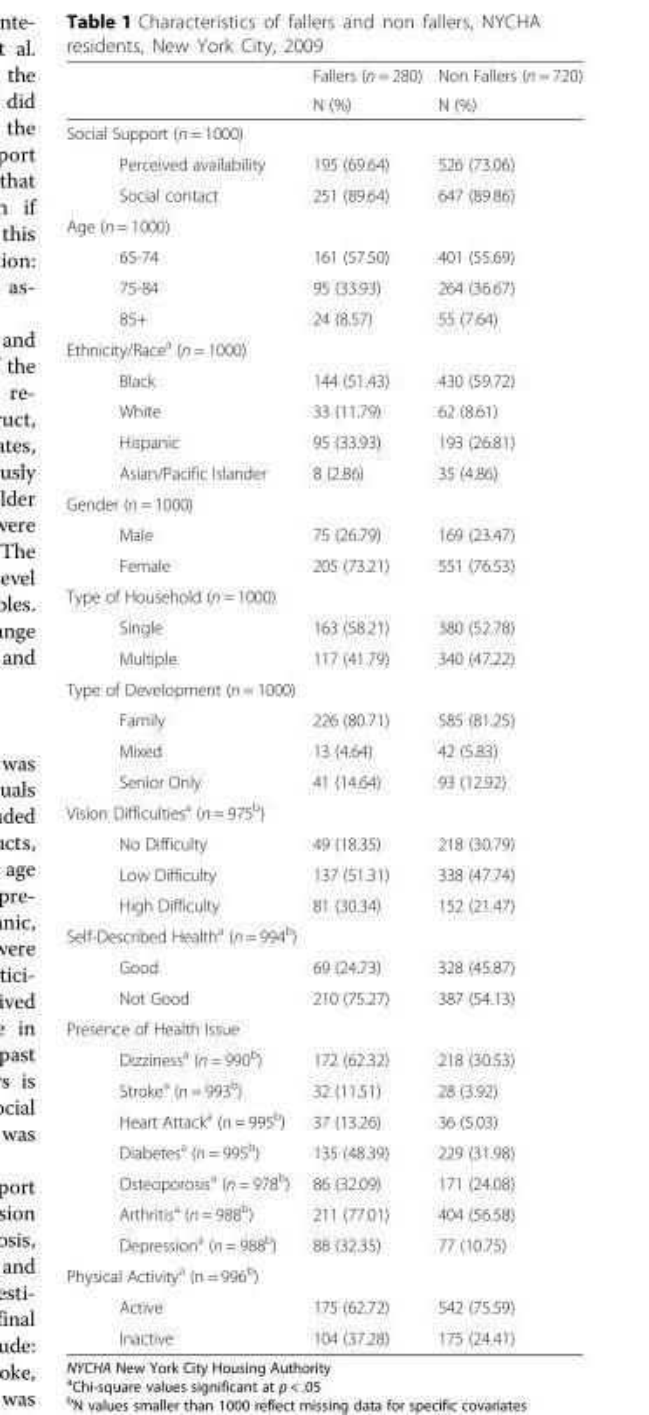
<table><thead><tr><td rowspan="2"></td><td rowspan="2">Fallers (n = 280) N (%)</td><td rowspan="2">Non Fallers (n = 720) N (%)</td></tr><tr></tr></thead><tbody><tr><td colspan="3">Social Support (n = 1000)</td></tr><tr><td>Perceived availability</td><td>195 (69.64)</td><td>526 (73.06)</td></tr><tr><td>Social contact</td><td>251 (89.64)</td><td>647 (89.86)</td></tr><tr><td colspan="3">Age (n = 1000)</td></tr><tr><td>65-74</td><td>161 (57.50)</td><td>401 (55.69)</td></tr><tr><td>75-84</td><td>95 (33.93)</td><td>264 (36.67)</td></tr><tr><td>85+</td><td>24 (8.57)</td><td>55 (7.64)</td></tr><tr><td colspan="3">Ethnicity/Race<sup>a</sup> (n = 1000)</td></tr><tr><td>Black</td><td>144 (51.43)</td><td>430 (59.72)</td></tr><tr><td>White</td><td>33 (11.79)</td><td>62 (8.61)</td></tr><tr><td>Hispanic</td><td>95 (33.93)</td><td>193 (26.81)</td></tr><tr><td>Asian/Pacific Islander</td><td>8 (2.86)</td><td>35 (4.86)</td></tr><tr><td colspan="3">Gender (n = 1000)</td></tr><tr><td>Male</td><td>75 (26.79)</td><td>169 (23.47)</td></tr><tr><td>Female</td><td>205 (73.21)</td><td>551 (76.53)</td></tr><tr><td colspan="3">Type of Household (n = 1000)</td></tr><tr><td>Single</td><td>163 (58.21)</td><td>380 (52.78)</td></tr><tr><td>Multiple</td><td>117 (41.79)</td><td>340 (47.22)</td></tr><tr><td colspan="3">Type of Development (n = 1000)</td></tr><tr><td>Family</td><td>226 (80.71)</td><td>585 (81.25)</td></tr><tr><td>Mixed</td><td>13 (4.64)</td><td>42 (5.83)</td></tr><tr><td>Senior Only</td><td>41 (14.64)</td><td>93 (12.92)</td></tr><tr><td colspan="3">Vision Difficulties<sup>a</sup> (n = 975<sup>b</sup>)</td></tr><tr><td>No Difficulty</td><td>49 (18.35)</td><td>218 (30.79)</td></tr><tr><td>Low Difficulty</td><td>137 (51.31)</td><td>338 (47.74)</td></tr><tr><td>High Difficulty</td><td>81 (30.34)</td><td>152 (21.47)</td></tr><tr><td colspan="3">Self-Described Health<sup>a</sup> (n = 994<sup>b</sup>)</td></tr><tr><td>Good</td><td>69 (24.73)</td><td>328 (45.87)</td></tr><tr><td>Not Good</td><td>210 (75.27)</td><td>387 (54.13)</td></tr><tr><td colspan="3">Presence of Health Issue</td></tr><tr><td>Dizziness<sup>a</sup> (n = 990<sup>b</sup>)</td><td>172 (62.32)</td><td>218 (30.53)</td></tr><tr><td>Stroke<sup>a</sup> (n = 993<sup>b</sup>)</td><td>32 (11.51)</td><td>28 (3.92)</td></tr><tr><td>Heart Attack<sup>a</sup> (n = 995<sup>b</sup>)</td><td>37 (13.26)</td><td>36 (5.03)</td></tr><tr><td>Diabetes<sup>a</sup> (n = 995<sup>b</sup>)</td><td>135 (48.39)</td><td>229 (31.98)</td></tr><tr><td>Osteoporosis<sup>a</sup> (n = 978<sup>b</sup>)</td><td>86 (32.09)</td><td>171 (24.08)</td></tr><tr><td>Arthritis<sup>a</sup> (n = 988<sup>b</sup>)</td><td>211 (77.01)</td><td>404 (56.58)</td></tr><tr><td>Depression<sup>a</sup> (n = 988<sup>b</sup>)</td><td>88 (32.35)</td><td>77 (10.75)</td></tr><tr><td colspan="3">Physical Activity<sup>a</sup> (n = 996<sup>b</sup>)</td></tr><tr><td>Active</td><td>175 (62.72)</td><td>542 (75.59)</td></tr><tr><td>Inactive</td><td>104 (37.28)</td><td>175 (24.41)</td></tr></tbody></table>